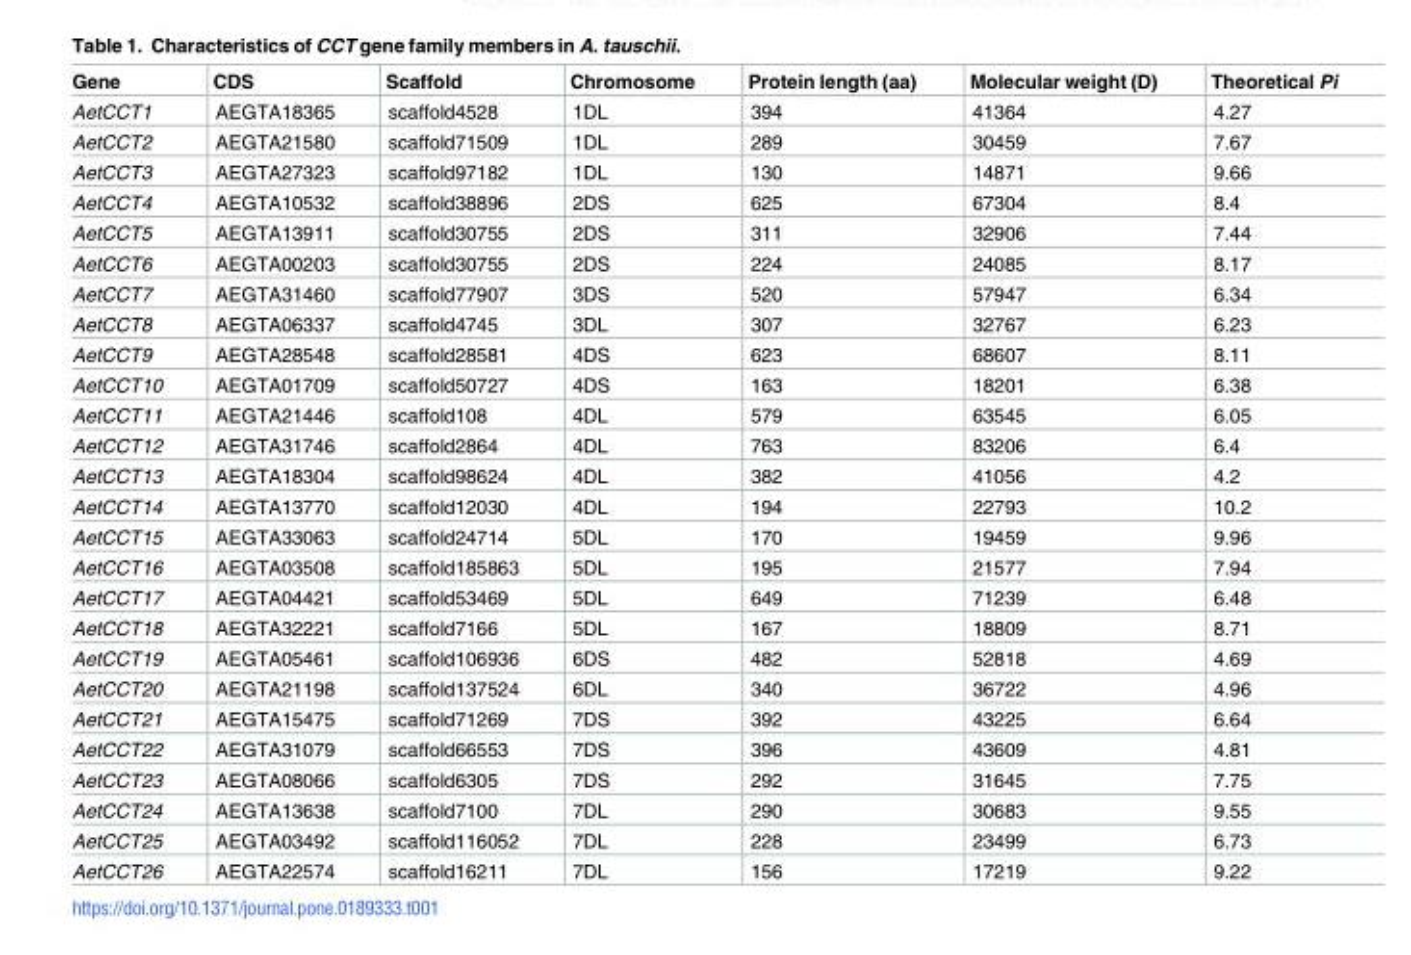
<table><thead><tr><td>Gene</td><td>CDS</td><td>Scaffold</td><td>Chromosome</td><td>Protein length (aa)</td><td>Molecular weight (D)</td><td>Theoretical Pi</td></tr></thead><tbody><tr><td>AetCCT1</td><td>AEGTA18365</td><td>scaffold4528</td><td>1DL</td><td>394</td><td>41364</td><td>4.27</td></tr><tr><td>AetCCT2</td><td>AEGTA21580</td><td>scaffold71509</td><td>1DL</td><td>289</td><td>30459</td><td>7.67</td></tr><tr><td>AetCCT3</td><td>AEGTA27323</td><td>scaffold97182</td><td>1DL</td><td>130</td><td>14871</td><td>9.66</td></tr><tr><td>AetCCT4</td><td>AEGTA10532</td><td>scaffold38896</td><td>2DS</td><td>625</td><td>67304</td><td>8.4</td></tr><tr><td>AetCCT5</td><td>AEGTA13911</td><td>scaffold30755</td><td>2DS</td><td>311</td><td>32906</td><td>7.44</td></tr><tr><td>AetCCT6</td><td>AEGTA00203</td><td>scaffold30755</td><td>2DS</td><td>224</td><td>24085</td><td>8.17</td></tr><tr><td>AetCCT7</td><td>AEGTA31460</td><td>scaffold77907</td><td>3DS</td><td>520</td><td>57947</td><td>6.34</td></tr><tr><td>AetCCT8</td><td>AEGTA06337</td><td>scaffold4745</td><td>3DL</td><td>307</td><td>32767</td><td>6.23</td></tr><tr><td>AetCCT9</td><td>AEGTA28548</td><td>scaffold28581</td><td>4DS</td><td>623</td><td>68607</td><td>8.11</td></tr><tr><td>AetCCT10</td><td>AEGTA01709</td><td>scaffold50727</td><td>4DS</td><td>163</td><td>18201</td><td>6.38</td></tr><tr><td>AetCCT11</td><td>AEGTA21446</td><td>scaffold108</td><td>4DL</td><td>579</td><td>63545</td><td>6.05</td></tr><tr><td>AetCCT12</td><td>AEGTA31746</td><td>scaffold2864</td><td>4DL</td><td>763</td><td>83206</td><td>6.4</td></tr><tr><td>AetCCT13</td><td>AEGTA18304</td><td>scaffold98624</td><td>4DL</td><td>382</td><td>41056</td><td>4.2</td></tr><tr><td>AetCCT14</td><td>AEGTA13770</td><td>scaffold12030</td><td>4DL</td><td>194</td><td>22793</td><td>10.2</td></tr><tr><td>AetCCT15</td><td>AEGTA33063</td><td>scaffold24714</td><td>5DL</td><td>170</td><td>19459</td><td>9.96</td></tr><tr><td>AetCCT16</td><td>AEGTA03508</td><td>scaffold185863</td><td>5DL</td><td>195</td><td>21577</td><td>7.94</td></tr><tr><td>AetCCT17</td><td>AEGTA04421</td><td>scaffold53469</td><td>5DL</td><td>649</td><td>71239</td><td>6.48</td></tr><tr><td>AetCCT18</td><td>AEGTA32221</td><td>scaffold7166</td><td>5DL</td><td>167</td><td>18809</td><td>8.71</td></tr><tr><td>AetCCT19</td><td>AEGTA05461</td><td>scaffold106936</td><td>6DS</td><td>482</td><td>52818</td><td>4.69</td></tr><tr><td>AetCCT20</td><td>AEGTA21198</td><td>scaffold137524</td><td>6DL</td><td>340</td><td>36722</td><td>4.96</td></tr><tr><td>AetCCT21</td><td>AEGTA15475</td><td>scaffold71269</td><td>7DS</td><td>392</td><td>43225</td><td>6.64</td></tr><tr><td>AetCCT22</td><td>AEGTA31079</td><td>scaffold66553</td><td>7DS</td><td>396</td><td>43609</td><td>4.81</td></tr><tr><td>AetCCT23</td><td>AEGTA08066</td><td>scaffold6305</td><td>7DS</td><td>292</td><td>31645</td><td>7.75</td></tr><tr><td>AetCCT24</td><td>AEGTA13638</td><td>scaffold7100</td><td>7DL</td><td>290</td><td>30683</td><td>9.55</td></tr><tr><td>AetCCT25</td><td>AEGTA03492</td><td>scaffold116052</td><td>7DL</td><td>228</td><td>23499</td><td>6.73</td></tr><tr><td>AetCCT26</td><td>AEGTA22574</td><td>scaffold16211</td><td>7DL</td><td>156</td><td>17219</td><td>9.22</td></tr></tbody></table>